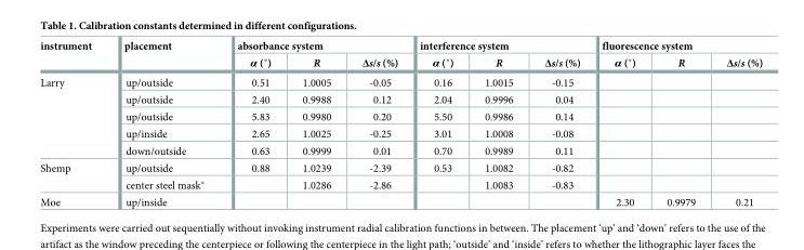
<table><thead><tr><td rowspan="2">instrument</td><td rowspan="2">placement</td><td colspan="3">absorbance system</td><td colspan="3">interference system</td><td colspan="3">fluorescence system</td></tr><tr><td>α (˚)</td><td>R</td><td>Δs/s (%)</td><td>α (˚)</td><td>R</td><td>Δs/s (%)</td><td>α (˚)</td><td>R</td><td>Δs/s (%)</td></tr></thead><tbody><tr><td rowspan="5">Larry</td><td>up/outside</td><td>0.51</td><td>1.0005</td><td>-0.05</td><td>0.16</td><td>1.0015</td><td>-0.15</td><td></td><td></td><td></td></tr><tr><td>up/outside</td><td>2.40</td><td>0.9988</td><td>0.12</td><td>2.04</td><td>0.9996</td><td>0.04</td><td></td><td></td><td></td></tr><tr><td>up/outside</td><td>5.83</td><td>0.9980</td><td>0.20</td><td>5.50</td><td>0.9986</td><td>0.14</td><td></td><td></td><td></td></tr><tr><td>up/inside</td><td>2.65</td><td>1.0025</td><td>-0.25</td><td>3.01</td><td>1.0008</td><td>-0.08</td><td></td><td></td><td></td></tr><tr><td>down/outside</td><td>0.63</td><td>0.9999</td><td>0.01</td><td>0.70</td><td>0.9989</td><td>0.11</td><td></td><td></td><td></td></tr><tr><td rowspan="2">Shemp</td><td>up/outside</td><td>0.88</td><td>1.0239</td><td>-2.39</td><td>0.53</td><td>1.0082</td><td>-0.82</td><td></td><td></td><td></td></tr><tr><td>center steel mask*</td><td></td><td>1.0286</td><td>-2.86</td><td></td><td>1.0083</td><td>-0.83</td><td></td><td></td><td></td></tr><tr><td>Moe</td><td>up/inside</td><td></td><td></td><td></td><td></td><td></td><td></td><td>2.30</td><td>0.9979</td><td>0.21</td></tr></tbody></table>